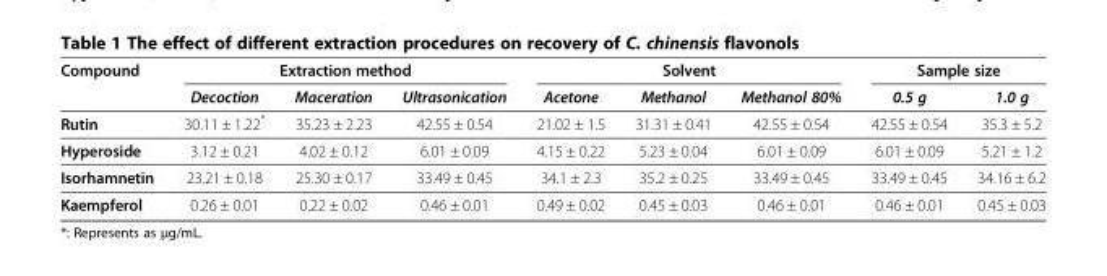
<table><thead><tr><td rowspan="2">Compound</td><td colspan="3">Extraction method</td><td colspan="3">Solvent</td><td colspan="2">Sample size</td></tr><tr><td>Decoction</td><td>Maceration</td><td>Ultrasonication</td><td>Acetone</td><td>Methanol</td><td>Methanol 80%</td><td>0.5 g</td><td>1.0 g</td></tr></thead><tbody><tr><td>Rutin</td><td>30.11 ± 1.22*</td><td>35.23 ± 2.23</td><td>42.55 ± 0.54</td><td>21.02 ± 1.5</td><td>31.31 ± 0.41</td><td>42.55 ± 0.54</td><td>42.55 ± 0.54</td><td>35.3 ± 5.2</td></tr><tr><td>Hyperoside</td><td>3.12 ± 0.21</td><td>4.02 ± 0.12</td><td>6.01 ± 0.09</td><td>4.15 ± 0.22</td><td>5.23 ± 0.04</td><td>6.01 ± 0.09</td><td>6.01 ± 0.09</td><td>5.21 ± 1.2</td></tr><tr><td>Isorhamnetin</td><td>23.21 ± 0.18</td><td>25.30 ± 0.17</td><td>33.49 ± 0.45</td><td>34.1 ± 2.3</td><td>35.2 ± 0.25</td><td>33.49 ± 0.45</td><td>33.49 ± 0.45</td><td>34.16 ± 6.2</td></tr><tr><td>Kaempferol</td><td>0.26 ± 0.01</td><td>0.22 ± 0.02</td><td>0.46 ± 0.01</td><td>0.49 ± 0.02</td><td>0.45 ± 0.03</td><td>0.46 ± 0.01</td><td>0.46 ± 0.01</td><td>0.45 ± 0.03</td></tr></tbody></table>